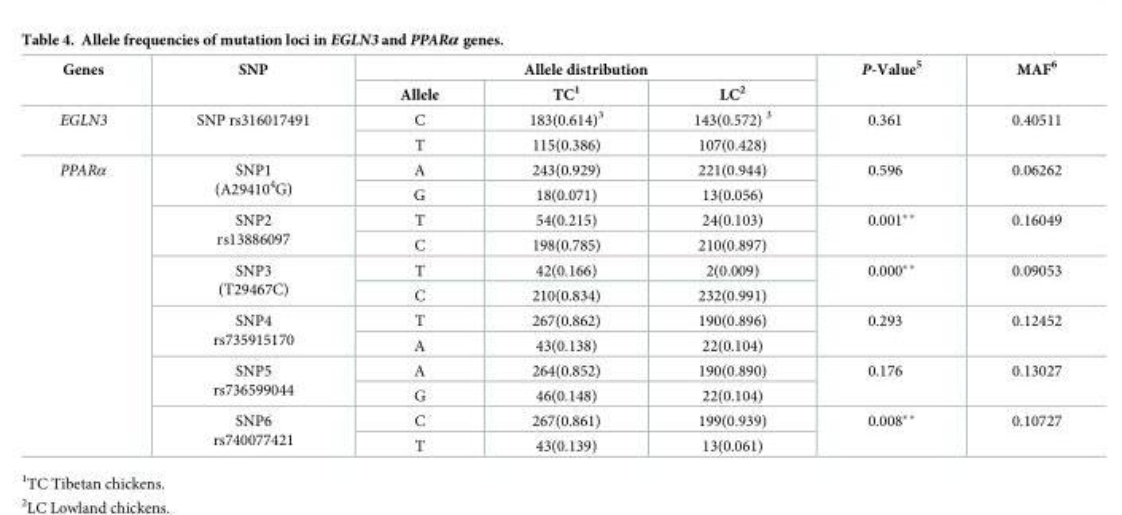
<table><thead><tr><td rowspan="2">Genes</td><td rowspan="2">SNP</td><td colspan="3">Allele distribution</td><td rowspan="2">P-Value<sup>5</sup></td><td rowspan="2">MAF<sup>6</sup></td></tr><tr><td>Allele</td><td>TC<sup>1</sup></td><td>LC<sup>2</sup></td></tr></thead><tbody><tr><td rowspan="2">EGLN3</td><td rowspan="2">SNP rs316017491</td><td>C</td><td>183(0.614)<sup>3</sup></td><td>143(0.572) <sup>3</sup></td><td rowspan="2">0.361</td><td rowspan="2">0.40511</td></tr><tr><td>T</td><td>115(0.386)</td><td>107(0.428)</td></tr><tr><td rowspan="12">PPARα</td><td rowspan="2">SNP1 (A29410<sup>4</sup>G)</td><td>A</td><td>243(0.929)</td><td>221(0.944)</td><td rowspan="2">0.596</td><td rowspan="2">0.06262</td></tr><tr><td>G</td><td>18(0.071)</td><td>13(0.056)</td></tr><tr><td rowspan="2">SNP2 rs13886097</td><td>T</td><td>54(0.215)</td><td>24(0.103)</td><td rowspan="2">0.001**</td><td rowspan="2">0.16049</td></tr><tr><td>C</td><td>198(0.785)</td><td>210(0.897)</td></tr><tr><td rowspan="2">SNP3 (T29467C)</td><td>T</td><td>42(0.166)</td><td>2(0.009)</td><td rowspan="2">0.000**</td><td rowspan="2">0.09053</td></tr><tr><td>C</td><td>210(0.834)</td><td>232(0.991)</td></tr><tr><td rowspan="2">SNP4 rs735915170</td><td>T</td><td>267(0.862)</td><td>190(0.896)</td><td rowspan="2">0.293</td><td rowspan="2">0.12452</td></tr><tr><td>A</td><td>43(0.138)</td><td>22(0.104)</td></tr><tr><td rowspan="2">SNP5 rs736599044</td><td>A</td><td>264(0.852)</td><td>190(0.890)</td><td rowspan="2">0.176</td><td rowspan="2">0.13027</td></tr><tr><td>G</td><td>46(0.148)</td><td>22(0.104)</td></tr><tr><td rowspan="2">SNP6 rs740077421</td><td>C</td><td>267(0.861)</td><td>199(0.939)</td><td rowspan="2">0.008**</td><td rowspan="2">0.10727</td></tr><tr><td>T</td><td>43(0.139)</td><td>13(0.061)</td></tr></tbody></table>